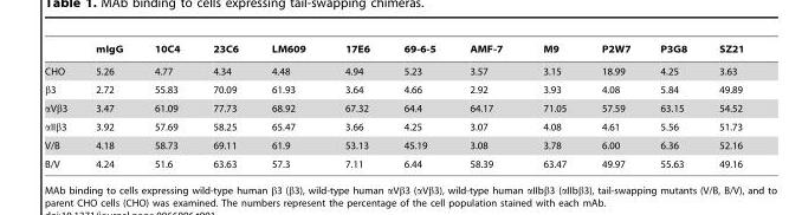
<table><thead><tr><td></td><td>mIgG</td><td>10C4</td><td>23C6</td><td>LM609</td><td>17E6</td><td>69-6-5</td><td>AMF-7</td><td>M9</td><td>P2W7</td><td>P3G8</td><td>SZ21</td></tr></thead><tbody><tr><td>CHO</td><td>5.26</td><td>4.77</td><td>4.34</td><td>4.48</td><td>4.94</td><td>5.23</td><td>3.57</td><td>3.15</td><td>18.99</td><td>4.25</td><td>3.63</td></tr><tr><td>β3</td><td>2.72</td><td>55.83</td><td>70.09</td><td>61.93</td><td>3.64</td><td>4.66</td><td>2.92</td><td>3.93</td><td>4.08</td><td>5.84</td><td>49.89</td></tr><tr><td>αVβ3</td><td>3.47</td><td>61.09</td><td>77.73</td><td>68.92</td><td>67.32</td><td>64.4</td><td>64.17</td><td>71.05</td><td>57.59</td><td>63.15</td><td>54.52</td></tr><tr><td>αIIβ3</td><td>3.92</td><td>57.69</td><td>58.25</td><td>65.47</td><td>3.66</td><td>4.25</td><td>3.07</td><td>4.08</td><td>4.61</td><td>5.56</td><td>51.73</td></tr><tr><td>V/B</td><td>4.18</td><td>58.73</td><td>69.11</td><td>61.9</td><td>53.13</td><td>45.19</td><td>3.08</td><td>3.78</td><td>6.00</td><td>6.36</td><td>52.16</td></tr><tr><td>B/V</td><td>4.24</td><td>51.6</td><td>63.63</td><td>57.3</td><td>7.11</td><td>6.44</td><td>58.39</td><td>63.47</td><td>49.97</td><td>55.63</td><td>49.16</td></tr></tbody></table>